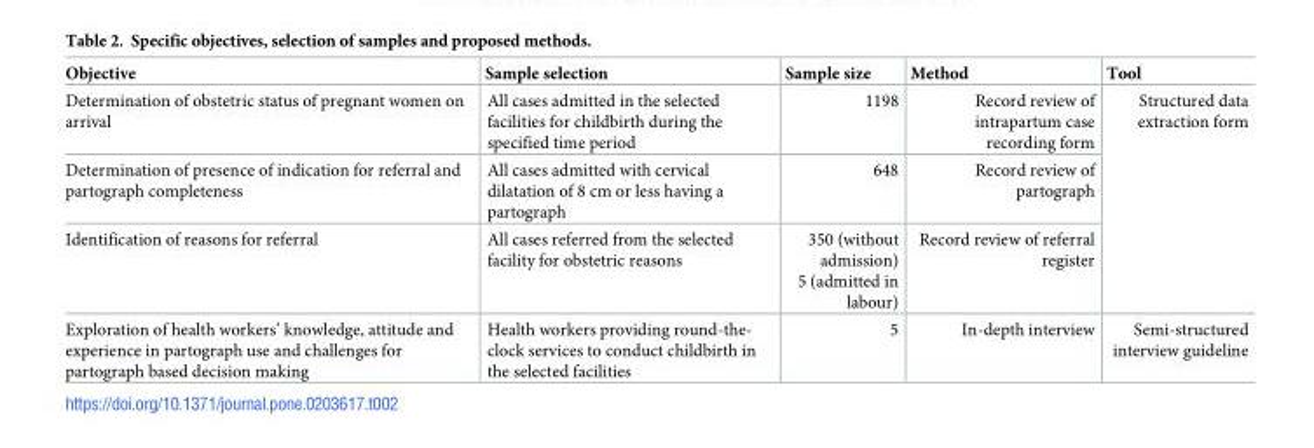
<table><thead><tr><td>Objective</td><td>Sample selection</td><td>Sample size</td><td>Method</td><td>Tool</td></tr></thead><tbody><tr><td>Determination of obstetric status of pregnant women on arrival</td><td>All cases admitted in the selected facilities for childbirth during the specified time period</td><td>1198</td><td>Record review of intrapartum case recording form</td><td rowspan="3">Structured data extraction form</td></tr><tr><td>Determination of presence of indication for referral and partograph completeness</td><td>All cases admitted with cervical dilatation of 8 cm or less having a partograph</td><td>648</td><td>Record review of partograph</td></tr><tr><td>Identification of reasons for referral</td><td>All cases referred from the selected facility for obstetric reasons</td><td>350 (without admission) 5 (admitted in labour)</td><td>Record review of referral register</td></tr><tr><td>Exploration of health workers’ knowledge, attitude and experience in partograph use and challenges for partograph based decision making</td><td>Health workers providing round-the- clock services to conduct childbirth in the selected facilities</td><td>5</td><td>In-depth interview</td><td>Semi-structured interview guideline</td></tr></tbody></table>